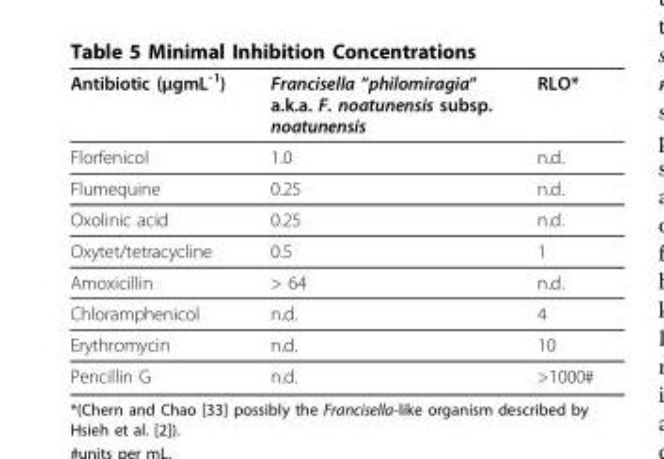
<table><thead><tr><td>Antibiotic (μgmL<sup>-1</sup>)</td><td>Francisella “philomiragia“ a.k.a. F. noatunensis subsp. noatunensis</td><td>RLO*</td></tr></thead><tbody><tr><td>Florfenicol</td><td>1.0</td><td>n.d.</td></tr><tr><td>Flumequine</td><td>0.25</td><td>n.d.</td></tr><tr><td>Oxolinic acid</td><td>0.25</td><td>n.d.</td></tr><tr><td>Oxytet/tetracycline</td><td>0.5</td><td>1</td></tr><tr><td>Amoxicillin</td><td>&gt; 64</td><td>n.d.</td></tr><tr><td>Chloramphenicol</td><td>n.d.</td><td>4</td></tr><tr><td>Erythromycin</td><td>n.d.</td><td>10</td></tr><tr><td>Pencillin G</td><td>n.d.</td><td>&gt;1000#</td></tr></tbody></table>